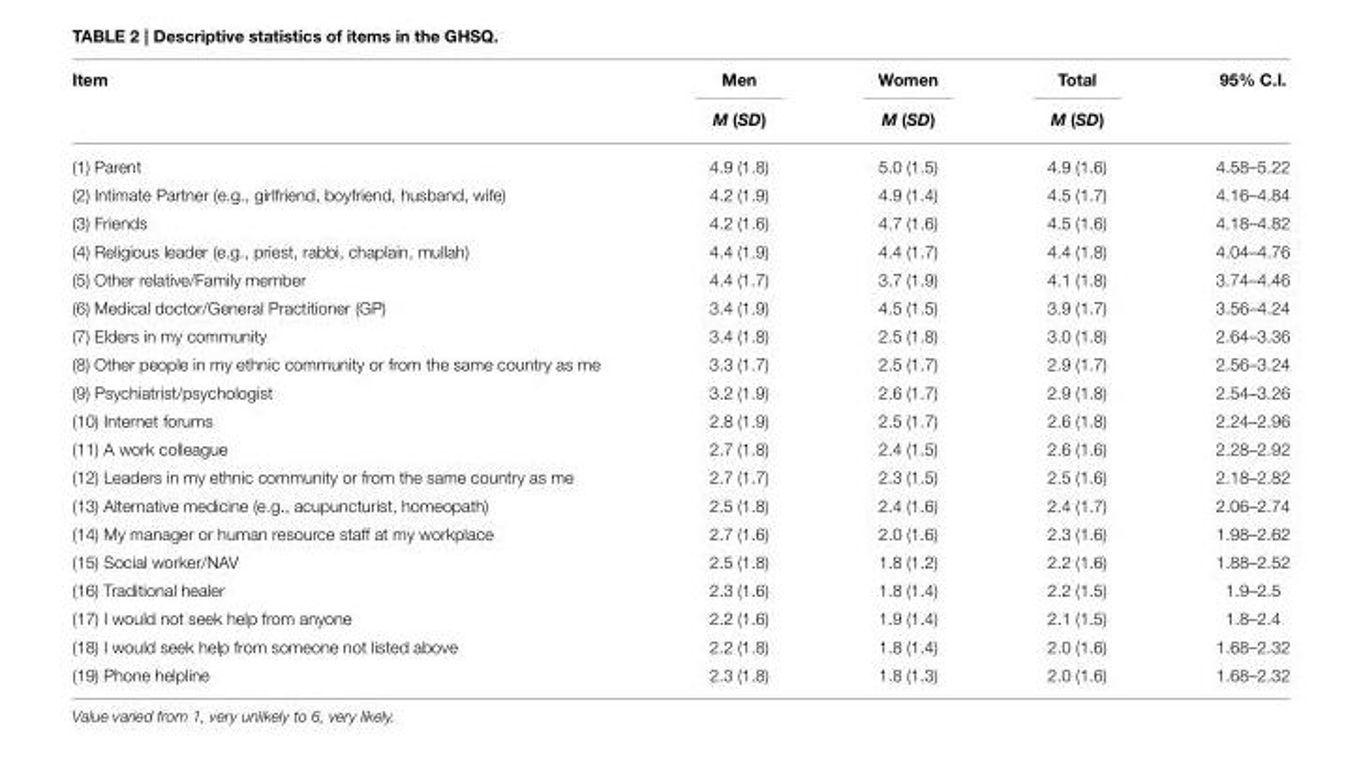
<table><thead><tr><td rowspan="2">Item</td><td rowspan="2">Men M (SD)</td><td rowspan="2">Women M (SD)</td><td rowspan="2">Total M (SD)</td><td rowspan="2">95% C.I.</td></tr><tr></tr></thead><tbody><tr><td>(1) Parent</td><td>4.9 (1.8)</td><td>5.0 (1.5)</td><td>4.9 (1.6)</td><td>4.58–5.22</td></tr><tr><td>(2) Intimate Partner (e.g., girlfriend, boyfriend, husband, wife)</td><td>4.2 (1.9)</td><td>4.9 (1.4)</td><td>4.5 (1.7)</td><td>4.16–4.84</td></tr><tr><td>(3) Friends</td><td>4.2 (1.6)</td><td>4.7 (1.6)</td><td>4.5 (1.6)</td><td>4.18–4.82</td></tr><tr><td>(4) Religious leader (e.g., priest, rabbi, chaplain, mullah)</td><td>4.4 (1.9)</td><td>4.4 (1.7)</td><td>4.4 (1.8)</td><td>4.04–4.76</td></tr><tr><td>(5) Other relative/Family member</td><td>4.4 (1.7)</td><td>3.7 (1.9)</td><td>4.1 (1.8)</td><td>3.74–4.46</td></tr><tr><td>(6) Medical doctor/General Practitioner (GP)</td><td>3.4 (1.9)</td><td>4.5 (1.5)</td><td>3.9 (1.7)</td><td>3.56–4.24</td></tr><tr><td>(7) Elders in my community</td><td>3.4 (1.8)</td><td>2.5 (1.8)</td><td>3.0 (1.8)</td><td>2.64–3.36</td></tr><tr><td>(8) Other people in my ethnic community or from the same country as me</td><td>3.3 (1.7)</td><td>2.5 (1.7)</td><td>2.9 (1.7)</td><td>2.56–3.24</td></tr><tr><td>(9) Psychiatrist/psychologist</td><td>3.2 (1.9)</td><td>2.6 (1.7)</td><td>2.9 (1.8)</td><td>2.54–3.26</td></tr><tr><td>(10) Internet forums</td><td>2.8 (1.9)</td><td>2.5 (1.7)</td><td>2.6 (1.8)</td><td>2.24–2.96</td></tr><tr><td>(11) A work colleague</td><td>2.7 (1.8)</td><td>2.4 (1.5)</td><td>2.6 (1.6)</td><td>2.28–2.92</td></tr><tr><td>(12) Leaders in my ethnic community or from the same country as me</td><td>2.7 (1.7)</td><td>2.3 (1.5)</td><td>2.5 (1.6)</td><td>2.18–2.82</td></tr><tr><td>(13) Alternative medicine (e.g., acupuncturist, homeopath)</td><td>2.5 (1.8)</td><td>2.4 (1.6)</td><td>2.4 (1.7)</td><td>2.06–2.74</td></tr><tr><td>(14) My manager or human resource staff at my workplace</td><td>2.7 (1.6)</td><td>2.0 (1.6)</td><td>2.3 (1.6)</td><td>1.98–2.62</td></tr><tr><td>(15) Social worker/NAV</td><td>2.5 (1.8)</td><td>1.8 (1.2)</td><td>2.2 (1.6)</td><td>1.88–2.52</td></tr><tr><td>(16) Traditional healer</td><td>2.3 (1.6)</td><td>1.8 (1.4)</td><td>2.2 (1.5)</td><td>1.9–2.5</td></tr><tr><td>(17) I would not seek help from anyone</td><td>2.2 (1.6)</td><td>1.9 (1.4)</td><td>2.1 (1.5)</td><td>1.8–2.4</td></tr><tr><td>(18) I would seek help from someone not listed above</td><td>2.2 (1.8)</td><td>1.8 (1.4)</td><td>2.0 (1.6)</td><td>1.68–2.32</td></tr><tr><td>(19) Phone helpline</td><td>2.3 (1.8)</td><td>1.8 (1.3)</td><td>2.0 (1.6)</td><td>1.68–2.32</td></tr></tbody></table>